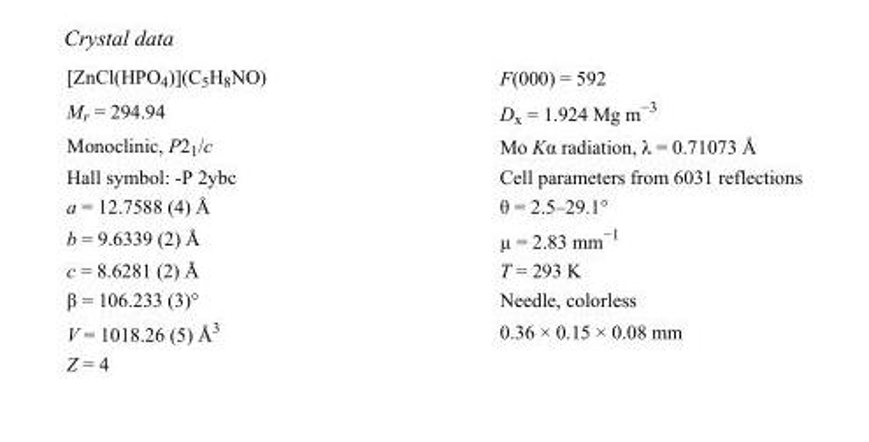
<table><tbody><tr><td>[ZnCl(HPO<sub>4</sub>)](C<sub>5</sub>H<sub>8</sub>NO)</td><td>F(000) = 592</td></tr><tr><td>M<sub>r</sub> = 294.94</td><td>D<sub>x</sub> = 1.924 Mg m<sup>−3</sup></td></tr><tr><td>Monoclinic, P2<sub>1</sub>/c</td><td>Mo Kα radiation, λ = 0.71073 Å</td></tr><tr><td>Hall symbol: -P 2ybc</td><td>Cell parameters from 6031 reflections</td></tr><tr><td>a = 12.7588 (4) Å</td><td>θ = 2.5–29.1°</td></tr><tr><td>b = 9.6339 (2) Å</td><td>µ = 2.83 mm<sup>−1</sup></td></tr><tr><td>c = 8.6281 (2) Å</td><td>T = 293 K</td></tr><tr><td>β = 106.233 (3)°</td><td>Needle, colorless</td></tr><tr><td>V = 1018.26 (5) Å<sup>3</sup></td><td>0.36 × 0.15 × 0.08 mm</td></tr><tr><td>Z = 4</td><td></td></tr></tbody></table>